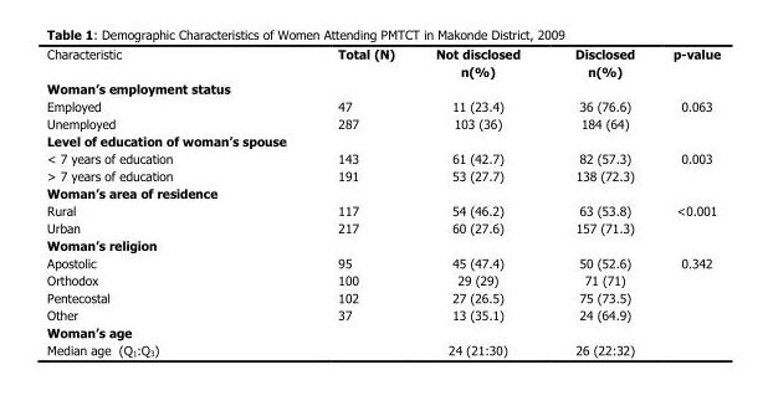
<table><thead><tr><td>Characteristic</td><td>Total (N)</td><td>Not disclosed n(%)</td><td>Disclosed n(%)</td><td>p-value</td></tr></thead><tbody><tr><td colspan="5">Woman’s employment status</td></tr><tr><td>Employed</td><td>47</td><td>11 (23.4)</td><td>36 (76.6)</td><td>0.063</td></tr><tr><td>Unemployed</td><td>287</td><td>103 (36)</td><td>184 (64)</td><td></td></tr><tr><td colspan="5">Level of education of woman’s spouse</td></tr><tr><td>&lt; 7 years of education</td><td>143</td><td>61 (42.7)</td><td>82 (57.3)</td><td>0.003</td></tr><tr><td>&gt; 7 years of education</td><td>191</td><td>53 (27.7)</td><td>138 (72.3)</td><td></td></tr><tr><td colspan="5">Woman’s area of residence</td></tr><tr><td>Rural</td><td>117</td><td>54 (46.2)</td><td>63 (53.8)</td><td>&lt;0.001</td></tr><tr><td>Urban</td><td>217</td><td>60 (27.6)</td><td>157 (71.3)</td><td></td></tr><tr><td colspan="5">Woman’s religion</td></tr><tr><td>Apostolic</td><td>95</td><td>45 (47.4)</td><td>50 (52.6)</td><td>0.342</td></tr><tr><td>Orthodox</td><td>100</td><td>29 (29)</td><td>71 (71)</td><td></td></tr><tr><td>Pentecostal</td><td>102</td><td>27 (26.5)</td><td>75 (73.5)</td><td></td></tr><tr><td>Other</td><td>37</td><td>13 (35.1)</td><td>24 (64.9)</td><td></td></tr><tr><td colspan="5">Woman’s age</td></tr><tr><td>Median age (Q<sub>1</sub>:Q<sub>3</sub>)</td><td></td><td>24 (21:30)</td><td>26 (22:32)</td><td></td></tr></tbody></table>